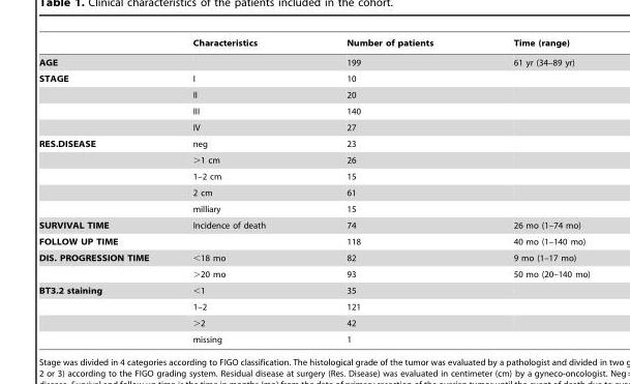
<table><thead><tr><td></td><td>Characteristics</td><td>Number of patients</td><td>Time (range)</td></tr></thead><tbody><tr><td>AGE</td><td></td><td>199</td><td>61 yr (34–89 yr)</td></tr><tr><td rowspan="4">STAGE</td><td>I</td><td>10</td><td></td></tr><tr><td>II</td><td>20</td><td></td></tr><tr><td>III</td><td>140</td><td></td></tr><tr><td>IV</td><td>27</td><td></td></tr><tr><td rowspan="5">RES.DISEASE</td><td>neg</td><td>23</td><td></td></tr><tr><td>&gt;1 cm</td><td>26</td><td></td></tr><tr><td>1–2 cm</td><td>15</td><td></td></tr><tr><td>2 cm</td><td>61</td><td></td></tr><tr><td>milliary</td><td>15</td><td></td></tr><tr><td>SURVIVAL TIME</td><td>Incidence of death</td><td>74</td><td>26 mo (1–74 mo)</td></tr><tr><td>FOLLOW UP TIME</td><td></td><td>118</td><td>40 mo (1–140 mo)</td></tr><tr><td rowspan="2">DIS. PROGRESSION TIME</td><td>&lt;18 mo</td><td>82</td><td>9 mo (1–17 mo)</td></tr><tr><td>&gt;20 mo</td><td>93</td><td>50 mo (20–140 mo)</td></tr><tr><td rowspan="4">BT3.2 staining</td><td>&lt;1</td><td>35</td><td></td></tr><tr><td>1–2</td><td>121</td><td></td></tr><tr><td>&gt;2</td><td>42</td><td></td></tr><tr><td>missing</td><td>1</td><td></td></tr></tbody></table>